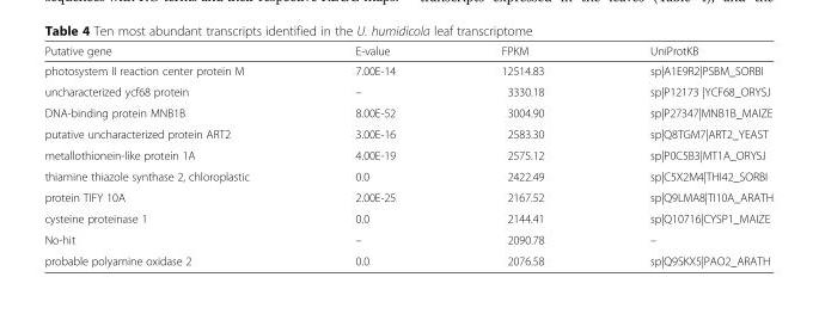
<table><thead><tr><td>Putative gene</td><td>E-value</td><td>FPKM</td><td>UniProtKB</td></tr></thead><tbody><tr><td>photosystem II reaction center protein M</td><td>7.00E-14</td><td>12514.83</td><td>sp|A1E9R2|PSBM_SORBI</td></tr><tr><td>uncharacterized ycf68 protein</td><td>–</td><td>3330.18</td><td>sp|P12173 |YCF68_ORYSJ</td></tr><tr><td>DNA-binding protein MNB1B</td><td>8.00E-52</td><td>3004.90</td><td>sp|P27347|MNB1B_MAIZE</td></tr><tr><td>putative uncharacterized protein ART2</td><td>3.00E-16</td><td>2583.30</td><td>sp|Q8TGM7|ART2_YEAST</td></tr><tr><td>metallothionein-like protein 1A</td><td>4.00E-19</td><td>2575.12</td><td>sp|P0C5B3|MT1A_ORYSJ</td></tr><tr><td>thiamine thiazole synthase 2, chloroplastic</td><td>0.0</td><td>2422.49</td><td>sp|C5X2M4|THI42_SORBI</td></tr><tr><td>protein TIFY 10A</td><td>2.00E-25</td><td>2167.52</td><td>sp|Q9LMA8|TI10A_ARATH</td></tr><tr><td>cysteine proteinase 1</td><td>0.0</td><td>2144.41</td><td>sp|Q10716|CYSP1_MAIZE</td></tr><tr><td>No-hit</td><td>–</td><td>2090.78</td><td>–</td></tr><tr><td>probable polyamine oxidase 2</td><td>0.0</td><td>2076.58</td><td>sp|Q9SKX5|PAO2_ARATH</td></tr></tbody></table>